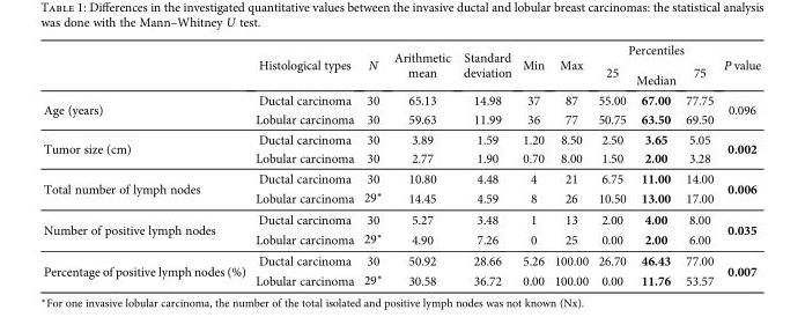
<table><thead><tr><td rowspan="2"></td><td rowspan="2">Histological types</td><td rowspan="2">N</td><td rowspan="2">Arithmetic mean</td><td rowspan="2">Standard deviation</td><td rowspan="2">Min</td><td rowspan="2">Max</td><td colspan="3">Percentiles</td><td rowspan="2">P value</td></tr><tr><td>25</td><td>Median</td><td>75</td></tr></thead><tbody><tr><td rowspan="2">Age (years)</td><td>Ductal carcinoma</td><td>30</td><td>65.13</td><td>14.98</td><td>37</td><td>87</td><td>55.00</td><td>67.00</td><td>77.75</td><td rowspan="2">0.096</td></tr><tr><td>Lobular carcinoma</td><td>30</td><td>59.63</td><td>11.99</td><td>36</td><td>77</td><td>50.75</td><td>63.50</td><td>69.50</td></tr><tr><td rowspan="2">Tumor size (cm)</td><td>Ductal carcinoma</td><td>30</td><td>3.89</td><td>1.59</td><td>1.20</td><td>8.50</td><td>2.50</td><td>3.65</td><td>5.05</td><td rowspan="2">0.002</td></tr><tr><td>Lobular carcinoma</td><td>30</td><td>2.77</td><td>1.90</td><td>0.70</td><td>8.00</td><td>1.50</td><td>2.00</td><td>3.28</td></tr><tr><td rowspan="2">Total number of lymph nodes</td><td>Ductal carcinoma</td><td>30</td><td>10.80</td><td>4.48</td><td>4</td><td>21</td><td>6.75</td><td>11.00</td><td>14.00</td><td rowspan="2">0.006</td></tr><tr><td>Lobular carcinoma</td><td>29∗</td><td>14.45</td><td>4.59</td><td>8</td><td>26</td><td>10.50</td><td>13.00</td><td>17.00</td></tr><tr><td rowspan="2">Number of positive lymph nodes</td><td>Ductal carcinoma</td><td>30</td><td>5.27</td><td>3.48</td><td>1</td><td>13</td><td>2.00</td><td>4.00</td><td>8.00</td><td rowspan="2">0.035</td></tr><tr><td>Lobular carcinoma</td><td>29∗</td><td>4.90</td><td>7.26</td><td>0</td><td>25</td><td>0.00</td><td>2.00</td><td>6.00</td></tr><tr><td rowspan="2">Percentage of positive lymph nodes (%)</td><td>Ductal carcinoma</td><td>30</td><td>50.92</td><td>28.66</td><td>5.26</td><td>100.00</td><td>26.70</td><td>46.43</td><td>77.00</td><td rowspan="2">0.007</td></tr><tr><td>Lobular carcinoma</td><td>29∗</td><td>30.58</td><td>36.72</td><td>0.00</td><td>100.00</td><td>0.00</td><td>11.76</td><td>53.57</td></tr></tbody></table>